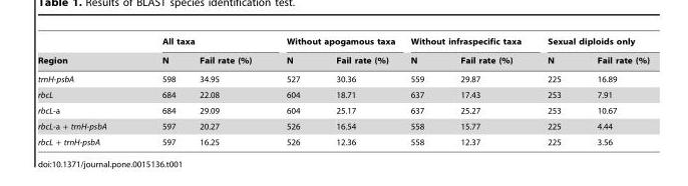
<table><thead><tr><td rowspan="2">Region</td><td colspan="2">All taxa</td><td colspan="2">Without apogamous taxa</td><td colspan="2">Without infraspecific taxa</td><td colspan="2">Sexual diploids only</td></tr><tr><td>N</td><td>Fail rate (%)</td><td>N</td><td>Fail rate (%)</td><td>N</td><td>Fail rate (%)</td><td>N</td><td>Fail rate (%)</td></tr></thead><tbody><tr><td>trnH-psbA</td><td>598</td><td>34.95</td><td>527</td><td>30.36</td><td>559</td><td>29.87</td><td>225</td><td>16.89</td></tr><tr><td>rbcL</td><td>684</td><td>22.08</td><td>604</td><td>18.71</td><td>637</td><td>17.43</td><td>253</td><td>7.91</td></tr><tr><td>rbcL-a</td><td>684</td><td>29.09</td><td>604</td><td>25.17</td><td>637</td><td>25.27</td><td>253</td><td>10.67</td></tr><tr><td>rbcL-a + trnH-psbA</td><td>597</td><td>20.27</td><td>526</td><td>16.54</td><td>558</td><td>15.77</td><td>225</td><td>4.44</td></tr><tr><td>rbcL + trnH-psbA</td><td>597</td><td>16.25</td><td>526</td><td>12.36</td><td>558</td><td>12.37</td><td>225</td><td>3.56</td></tr></tbody></table>